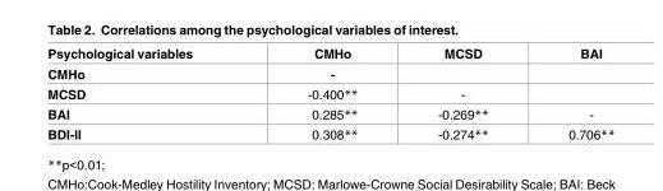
<table><thead><tr><td>Psychological variables</td><td>CMHo</td><td>MCSD</td><td>BAI</td></tr></thead><tbody><tr><td>CMHo</td><td>-</td><td></td><td></td></tr><tr><td>MCSD</td><td>-0.400**</td><td>-</td><td></td></tr><tr><td>BAI</td><td>0.285**</td><td>-0.269**</td><td>-</td></tr><tr><td>BDI-II</td><td>0.308**</td><td>-0.274**</td><td>0.706**</td></tr></tbody></table>